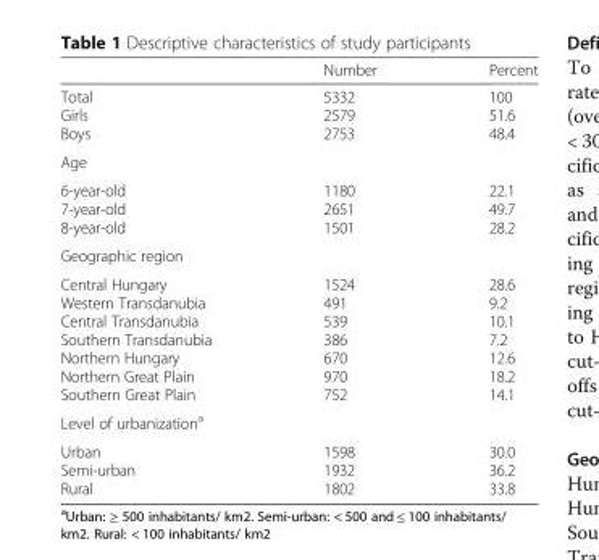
<table><thead><tr><td></td><td>Number</td><td>Percent</td></tr></thead><tbody><tr><td>Total Girls Boys</td><td>5332 2579 2753</td><td>100 51.6 48.4</td></tr><tr><td colspan="3">Age</td></tr><tr><td>6-year-old 7-year-old 8-year-old</td><td>1180 2651 1501</td><td>22.1 49.7 28.2</td></tr><tr><td colspan="3">Geographic region</td></tr><tr><td>Central Hungary Western Transdanubia Central Transdanubia Southern Transdanubia Northern Hungary Northern Great Plain Southern Great Plain</td><td>1524 491 539 386 670 970 752</td><td>28.6 9.2 10.1 7.2 12.6 18.2 14.1</td></tr><tr><td colspan="3">Level of urbanization<sup>a</sup></td></tr><tr><td>Urban Semi-urban Rural</td><td>1598 1932 1802</td><td>30.0 36.2 33.8</td></tr></tbody></table>